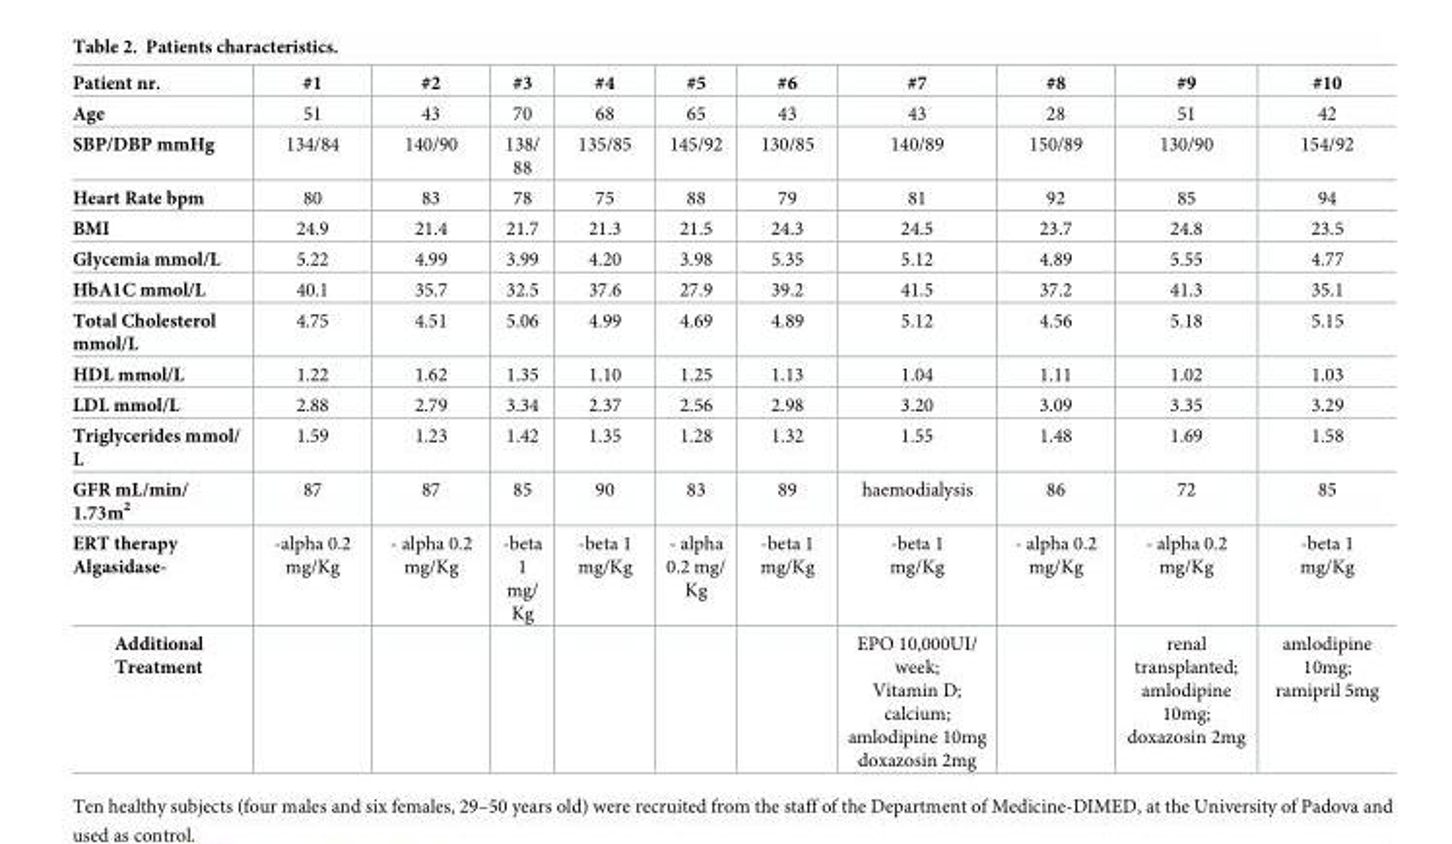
<table><thead><tr><td>Patient nr.</td><td>#1</td><td>#2</td><td>#3</td><td>#4</td><td>#5</td><td>#6</td><td>#7</td><td>#8</td><td>#9</td><td>#10</td></tr></thead><tbody><tr><td>Age</td><td>51</td><td>43</td><td>70</td><td>68</td><td>65</td><td>43</td><td>43</td><td>28</td><td>51</td><td>42</td></tr><tr><td>SBP/DBP mmHg</td><td>134/84</td><td>140/90</td><td>138/ 88</td><td>135/85</td><td>145/92</td><td>130/85</td><td>140/89</td><td>150/89</td><td>130/90</td><td>154/92</td></tr><tr><td>Heart Rate bpm</td><td>80</td><td>83</td><td>78</td><td>75</td><td>88</td><td>79</td><td>81</td><td>92</td><td>85</td><td>94</td></tr><tr><td>BMI</td><td>24.9</td><td>21.4</td><td>21.7</td><td>21.3</td><td>21.5</td><td>24.3</td><td>24.5</td><td>23.7</td><td>24.8</td><td>23.5</td></tr><tr><td>Glycemia mmol/L</td><td>5.22</td><td>4.99</td><td>3.99</td><td>4.20</td><td>3.98</td><td>5.35</td><td>5.12</td><td>4.89</td><td>5.55</td><td>4.77</td></tr><tr><td>HbA1C mmol/L</td><td>40.1</td><td>35.7</td><td>32.5</td><td>37.6</td><td>27.9</td><td>39.2</td><td>41.5</td><td>37.2</td><td>41.3</td><td>35.1</td></tr><tr><td>Total Cholesterol mmol/L</td><td>4.75</td><td>4.51</td><td>5.06</td><td>4.99</td><td>4.69</td><td>4.89</td><td>5.12</td><td>4.56</td><td>5.18</td><td>5.15</td></tr><tr><td>HDL mmol/L</td><td>1.22</td><td>1.62</td><td>1.35</td><td>1.10</td><td>1.25</td><td>1.13</td><td>1.04</td><td>1.11</td><td>1.02</td><td>1.03</td></tr><tr><td>LDL mmol/L</td><td>2.88</td><td>2.79</td><td>3.34</td><td>2.37</td><td>2.56</td><td>2.98</td><td>3.20</td><td>3.09</td><td>3.35</td><td>3.29</td></tr><tr><td>Triglycerides mmol/ L</td><td>1.59</td><td>1.23</td><td>1.42</td><td>1.35</td><td>1.28</td><td>1.32</td><td>1.55</td><td>1.48</td><td>1.69</td><td>1.58</td></tr><tr><td>GFR mL/min/ 1.73m<sup>2</sup></td><td>87</td><td>87</td><td>85</td><td>90</td><td>83</td><td>89</td><td>haemodialysis</td><td>86</td><td>72</td><td>85</td></tr><tr><td>ERT therapy Algasidase-</td><td>-alpha 0.2 mg/Kg</td><td>- alpha 0.2 mg/Kg</td><td>-beta 1 mg/ Kg</td><td>-beta 1 mg/Kg</td><td>- alpha 0.2 mg/ Kg</td><td>-beta 1 mg/Kg</td><td>-beta 1 mg/Kg</td><td>- alpha 0.2 mg/Kg</td><td>- alpha 0.2 mg/Kg</td><td>-beta 1 mg/Kg</td></tr><tr><td>Additional Treatment</td><td></td><td></td><td></td><td></td><td></td><td></td><td>EPO 10,000UI/ week; Vitamin D; calcium; amlodipine 10mg doxazosin 2mg</td><td></td><td>renal transplanted; amlodipine 10mg; doxazosin 2mg</td><td>amlodipine 10mg; ramipril 5mg</td></tr></tbody></table>